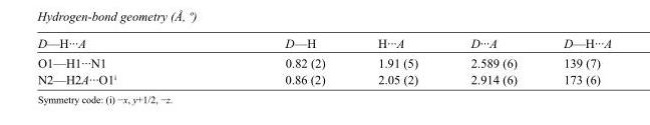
<table><tbody><tr><td>D—H···A</td><td>D—H</td><td>H···A</td><td>D···A</td><td>D—H···A</td></tr><tr><td>O1—H1···N1</td><td>0.82 (2)</td><td>1.91 (5)</td><td>2.589 (6)</td><td>139 (7)</td></tr><tr><td>N2—H2A···O1<sup>i</sup></td><td>0.86 (2)</td><td>2.05 (2)</td><td>2.914 (6)</td><td>173 (6)</td></tr></tbody></table>